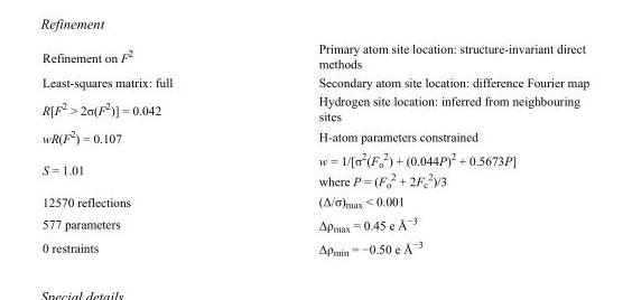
<table><tbody><tr><td>Refinement on F<sup>2</sup></td><td>Primary atom site location: structure-invariant direct methods</td></tr><tr><td>Least-squares matrix: full</td><td>Secondary atom site location: difference Fourier map</td></tr><tr><td>R[F<sup>2</sup> &gt; 2σ(F<sup>2</sup>)] = 0.042</td><td>Hydrogen site location: inferred from neighbouring sites</td></tr><tr><td>wR(F<sup>2</sup>) = 0.107</td><td>H-atom parameters constrained</td></tr><tr><td>S = 1.01</td><td>w = 1/[σ<sup>2</sup>(F<sub>o</sub> <sup>2</sup>) + (0.044P)<sup>2</sup> + 0.5673P] where P = (F<sub>o</sub> <sup>2</sup> + 2F<sub>c</sub> <sup>2</sup>)/3</td></tr><tr><td>12570 reflections</td><td>(Δ/σ)<sub>max</sub> &lt; 0.001</td></tr><tr><td>577 parameters</td><td>Δρ<sub>max</sub> = 0.45 e Å<sup>−3</sup></td></tr><tr><td>0 restraints</td><td>Δρ<sub>min</sub> = −0.50 e Å<sup>−3</sup></td></tr></tbody></table>